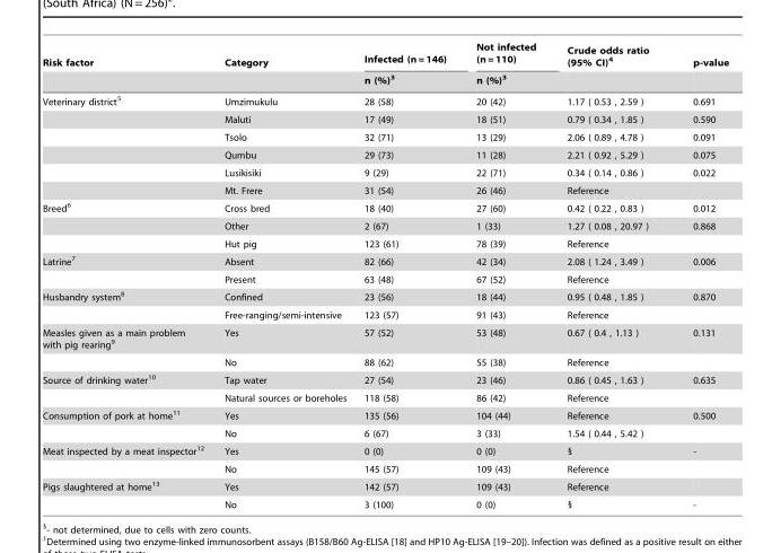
<table><thead><tr><td rowspan="2">Risk factor</td><td rowspan="2">Category</td><td rowspan="2">Infected (n = 146) n (%)<sup>3</sup></td><td rowspan="2">Not infected (n = 110) n (%)<sup>3</sup></td><td rowspan="2">Crude odds ratio (95% CI)<sup>4</sup></td><td rowspan="2">p-value</td></tr><tr></tr></thead><tbody><tr><td rowspan="6">Veterinary district<sup>5</sup></td><td>Umzimukulu</td><td>28 (58)</td><td>20 (42)</td><td>1.17 ( 0.53 , 2.59 )</td><td>0.691</td></tr><tr><td>Maluti</td><td>17 (49)</td><td>18 (51)</td><td>0.79 ( 0.34 , 1.85 )</td><td>0.590</td></tr><tr><td>Tsolo</td><td>32 (71)</td><td>13 (29)</td><td>2.06 ( 0.89 , 4.78 )</td><td>0.091</td></tr><tr><td>Qumbu</td><td>29 (73)</td><td>11 (28)</td><td>2.21 ( 0.92 , 5.29 )</td><td>0.075</td></tr><tr><td>Lusikisiki</td><td>9 (29)</td><td>22 (71)</td><td>0.34 ( 0.14 , 0.86 )</td><td>0.022</td></tr><tr><td>Mt. Frere</td><td>31 (54)</td><td>26 (46)</td><td>Reference</td><td></td></tr><tr><td rowspan="3">Breed<sup>6</sup></td><td>Cross bred</td><td>18 (40)</td><td>27 (60)</td><td>0.42 ( 0.22 , 0.83 )</td><td>0.012</td></tr><tr><td>Other</td><td>2 (67)</td><td>1 (33)</td><td>1.27 ( 0.08 , 20.97 )</td><td>0.868</td></tr><tr><td>Hut pig</td><td>123 (61)</td><td>78 (39)</td><td>Reference</td><td></td></tr><tr><td rowspan="2">Latrine<sup>7</sup></td><td>Absent</td><td>82 (66)</td><td>42 (34)</td><td>2.08 ( 1.24 , 3.49 )</td><td>0.006</td></tr><tr><td>Present</td><td>63 (48)</td><td>67 (52)</td><td>Reference</td><td></td></tr><tr><td rowspan="2">Husbandry system<sup>8</sup></td><td>Confined</td><td>23 (56)</td><td>18 (44)</td><td>0.95 ( 0.48 , 1.85 )</td><td>0.870</td></tr><tr><td>Free-ranging/semi-intensive</td><td>123 (57)</td><td>91 (43)</td><td>Reference</td><td></td></tr><tr><td rowspan="2">Measles given as a main problem with pig rearing<sup>9</sup></td><td>Yes</td><td>57 (52)</td><td>53 (48)</td><td>0.67 ( 0.4 , 1.13 )</td><td>0.131</td></tr><tr><td>No</td><td>88 (62)</td><td>55 (38)</td><td>Reference</td><td></td></tr><tr><td rowspan="2">Source of drinking water<sup>10</sup></td><td>Tap water</td><td>27 (54)</td><td>23 (46)</td><td>0.86 ( 0.45 , 1.63 )</td><td>0.635</td></tr><tr><td>Natural sources or boreholes</td><td>118 (58)</td><td>86 (42)</td><td>Reference</td><td></td></tr><tr><td rowspan="2">Consumption of pork at home<sup>11</sup></td><td>Yes</td><td>135 (56)</td><td>104 (44)</td><td>Reference</td><td>0.500</td></tr><tr><td>No</td><td>6 (67)</td><td>3 (33)</td><td>1.54 ( 0.44 , 5.42 )</td><td></td></tr><tr><td rowspan="2">Meat inspected by a meat inspector<sup>12</sup></td><td>Yes</td><td>0 (0)</td><td>0 (0)</td><td>§</td><td>-</td></tr><tr><td>No</td><td>145 (57)</td><td>109 (43)</td><td>Reference</td><td></td></tr><tr><td rowspan="2">Pigs slaughtered at home<sup>13</sup></td><td>Yes</td><td>142 (57)</td><td>109 (43)</td><td>Reference</td><td></td></tr><tr><td>No</td><td>3 (100)</td><td>0 (0)</td><td>§</td><td>-</td></tr></tbody></table>